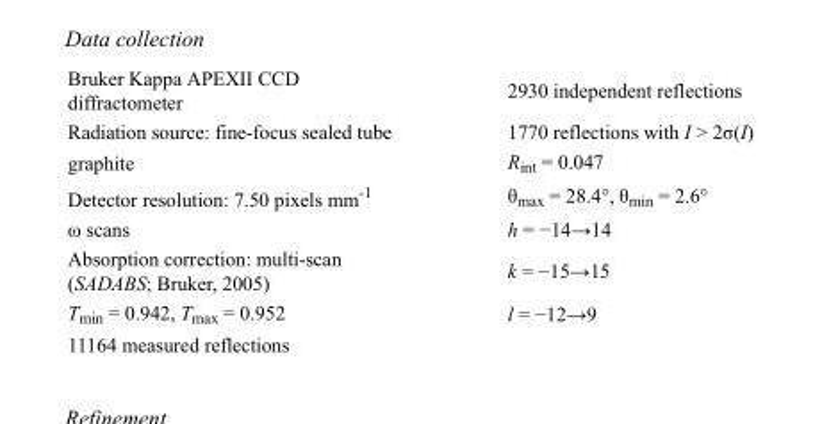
<table><tbody><tr><td>Bruker Kappa APEXII CCD diffractometer</td><td>2930 independent reflections</td></tr><tr><td>Radiation source: fine-focus sealed tube</td><td>1770 reflections with I &gt; 2σ(I)</td></tr><tr><td>graphite</td><td>R<sub>int</sub> = 0.047</td></tr><tr><td>Detector resolution: 7.50 pixels mm<sup>-1</sup></td><td>θ<sub>max</sub> = 28.4°, θ<sub>min</sub> = 2.6°</td></tr><tr><td>ω scans</td><td>h = −14→14</td></tr><tr><td>Absorption correction: multi-scan (SADABS; Bruker, 2005)</td><td>k = −15→15</td></tr><tr><td>T<sub>min</sub> = 0.942, T<sub>max</sub> = 0.952</td><td>l = −12→9</td></tr><tr><td>11164 measured reflections</td><td></td></tr></tbody></table>